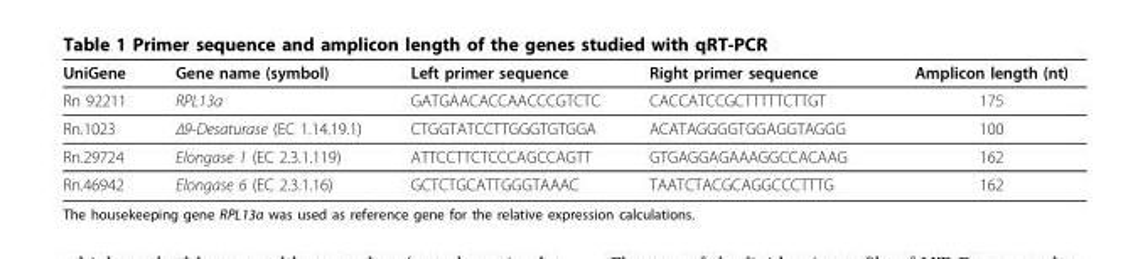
<table><thead><tr><td>UniGene</td><td>Gene name (symbol)</td><td>Left primer sequence</td><td>Right primer sequence</td><td>Amplicon length (nt)</td></tr></thead><tbody><tr><td>Rn 92211</td><td>RPL13a</td><td>GATGAACACCAACCCGTCTC</td><td>CACCATCCGCTTTTTCTTGT</td><td>175</td></tr><tr><td>Rn.1023</td><td>Δ9-Desaturase (EC 1.14.19.1)</td><td>CTGGTATCCTTGGGTGTGGA</td><td>ACATAGGGGTGGAGGTAGGG</td><td>100</td></tr><tr><td>Rn.29724</td><td>Elongase 1 (EC 2.3.1.119)</td><td>ATTCCTTCTCCCAGCCAGTT</td><td>GTGAGGAGAAAGGCCACAAG</td><td>162</td></tr><tr><td>Rn.46942</td><td>Elongase 6 (EC 2.3.1.16)</td><td>GCTCTGCATTGGGTAAAC</td><td>TAATCTACGCAGGCCCTTTG</td><td>162</td></tr></tbody></table>